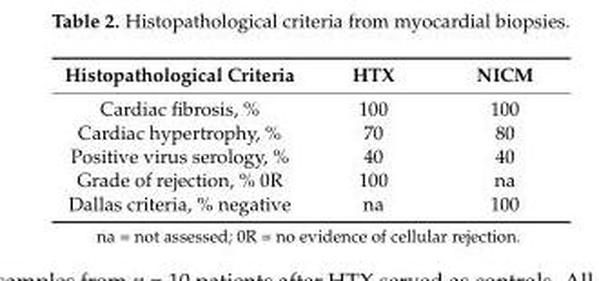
<table><thead><tr><td>Histopathological Criteria</td><td>HTX</td><td>NICM</td></tr></thead><tbody><tr><td>Cardiac fibrosis, %</td><td>100</td><td>100</td></tr><tr><td>Cardiac hypertrophy, %</td><td>70</td><td>80</td></tr><tr><td>Positive virus serology, %</td><td>40</td><td>40</td></tr><tr><td>Grade of rejection, % 0R</td><td>100</td><td>na</td></tr><tr><td>Dallas criteria, % negative</td><td>na</td><td>100</td></tr></tbody></table>